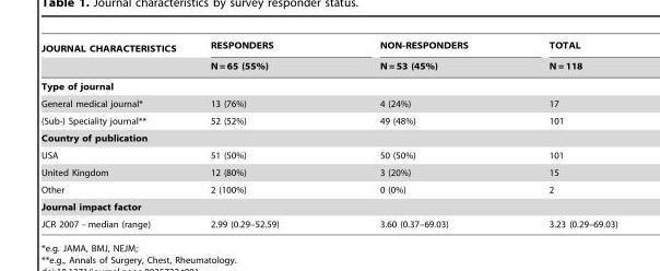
<table><thead><tr><td rowspan="2">JOURNAL CHARACTERISTICS</td><td rowspan="2">RESPONDERS N = 65 (55%)</td><td rowspan="2">NON-RESPONDERS N = 53 (45%)</td><td rowspan="2">TOTAL N = 118</td></tr><tr></tr></thead><tbody><tr><td colspan="4">Type of journal</td></tr><tr><td>General medical journal*</td><td>13 (76%)</td><td>4 (24%)</td><td>17</td></tr><tr><td>(Sub-) Speciality journal**</td><td>52 (52%)</td><td>49 (48%)</td><td>101</td></tr><tr><td colspan="4">Country of publication</td></tr><tr><td>USA</td><td>51 (50%)</td><td>50 (50%)</td><td>101</td></tr><tr><td>United Kingdom</td><td>12 (80%)</td><td>3 (20%)</td><td>15</td></tr><tr><td>Other</td><td>2 (100%)</td><td>0 (0%)</td><td>2</td></tr><tr><td colspan="4">Journal impact factor</td></tr><tr><td>JCR 2007 - median (range)</td><td>2.99 (0.29–52.59)</td><td>3.60 (0.37–69.03)</td><td>3.23 (0.29–69.03)</td></tr></tbody></table>